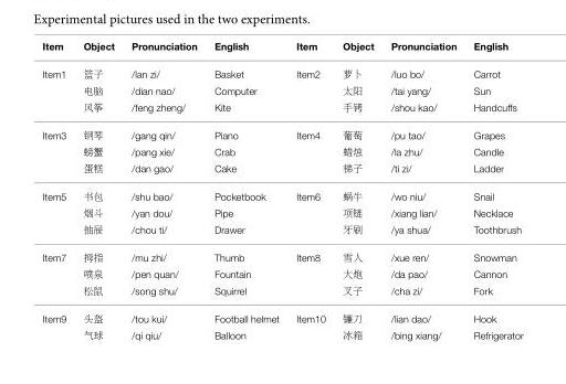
<table><thead><tr><td>Item</td><td>Object</td><td>Pronunciation</td><td>English</td><td>Item</td><td>Object</td><td>Pronunciation</td><td>English</td></tr></thead><tbody><tr><td rowspan="3">Item1</td><td>篮子</td><td>/lan zi/</td><td>Basket</td><td>Item2</td><td>萝卜</td><td>/luo bo/</td><td>Carrot</td></tr><tr><td>电脑</td><td>/dian nao/</td><td>Computer</td><td></td><td>太阳</td><td>/tai yang/</td><td>Sun</td></tr><tr><td>风筝</td><td>/feng zheng/</td><td>Kite</td><td></td><td>手铐</td><td>/shou kao/</td><td>Handcuffs</td></tr><tr><td rowspan="3">Item3</td><td>钢琴</td><td>/gang qin/</td><td>Piano</td><td>Item4</td><td>葡萄</td><td>/pu tao/</td><td>Grapes</td></tr><tr><td>螃蟹</td><td>/pang xie/</td><td>Crab</td><td></td><td>蜡烛</td><td>/la zhu/</td><td>Candle</td></tr><tr><td>蛋糕</td><td>/dan gao/</td><td>Cake</td><td></td><td>梯子</td><td>/ti zi/</td><td>Ladder</td></tr><tr><td rowspan="3">Item5</td><td>书包</td><td>/shu bao/</td><td>Pocketbook</td><td>Item6</td><td>蜗牛</td><td>/wo niu/</td><td>Snail</td></tr><tr><td>烟斗</td><td>/yan dou/</td><td>Pipe</td><td></td><td>项链</td><td>/xiang lian/</td><td>Necklace</td></tr><tr><td>抽屉</td><td>/chou ti/</td><td>Drawer</td><td></td><td>牙刷</td><td>/ya shua/</td><td>Toothbrush</td></tr><tr><td rowspan="3">Item7</td><td>拇指</td><td>/mu zhi/</td><td>Thumb</td><td>Item8</td><td>雪人</td><td>/xue ren/</td><td>Snowman</td></tr><tr><td>喷泉</td><td>/pen quan/</td><td>Fountain</td><td></td><td>大炮</td><td>/da pao/</td><td>Cannon</td></tr><tr><td>松鼠</td><td>/song shu/</td><td>Squirrel</td><td></td><td>叉子</td><td>/cha zi/</td><td>Fork</td></tr><tr><td rowspan="2">Item9</td><td>头盔</td><td>/tou kui/</td><td>Football helmet</td><td>Item10</td><td>镰刀</td><td>/lian dao/</td><td>Hook</td></tr><tr><td>气球</td><td>/qi qiu/</td><td>Balloon</td><td></td><td>冰箱</td><td>/bing xiang/</td><td>Refrigerator</td></tr></tbody></table>